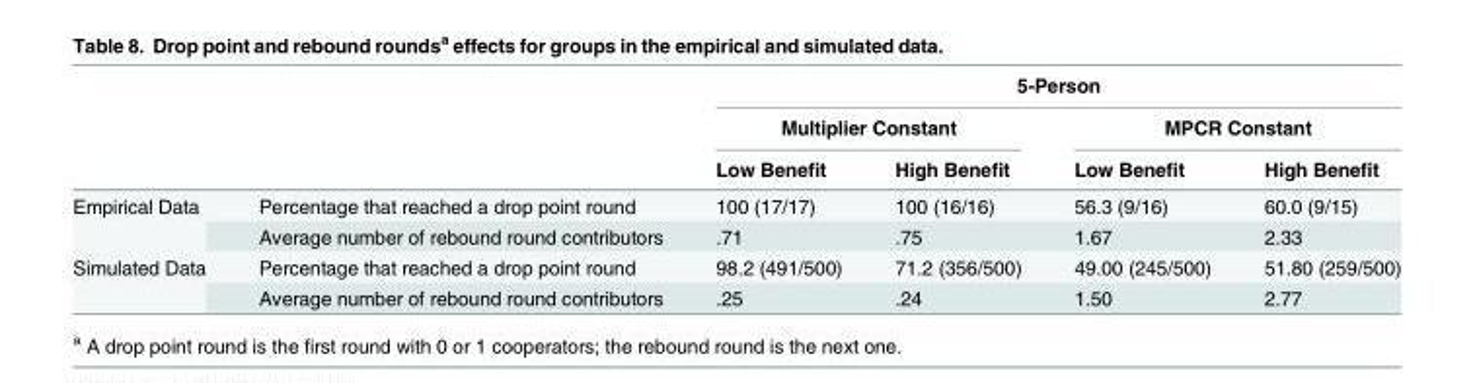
<table><thead><tr><td rowspan="3"></td><td rowspan="3"></td><td colspan="4">5-Person</td></tr><tr><td colspan="2">Multiplier Constant</td><td colspan="2">MPCR Constant</td></tr><tr><td>Low Benefit</td><td>High Benefit</td><td>Low Benefit</td><td>High Benefit</td></tr></thead><tbody><tr><td rowspan="2">Empirical Data</td><td>Percentage that reached a drop point round</td><td>100 (17/17)</td><td>100 (16/16)</td><td>56.3 (9/16)</td><td>60.0 (9/15)</td></tr><tr><td>Average number of rebound round contributors</td><td>.71</td><td>.75</td><td>1.67</td><td>2.33</td></tr><tr><td rowspan="2">Simulated Data</td><td>Percentage that reached a drop point round</td><td>98.2 (491/500)</td><td>71.2 (356/500)</td><td>49.00 (245/500)</td><td>51.80 (259/500)</td></tr><tr><td>Average number of rebound round contributors</td><td>.25</td><td>.24</td><td>1.50</td><td>2.77</td></tr></tbody></table>